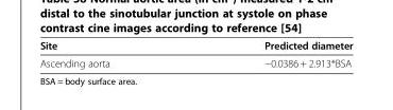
<table><thead><tr><td>Site</td><td>Predicted diameter</td></tr></thead><tbody><tr><td>Ascending aorta</td><td>−0.0386 + 2.913*BSA</td></tr></tbody></table>